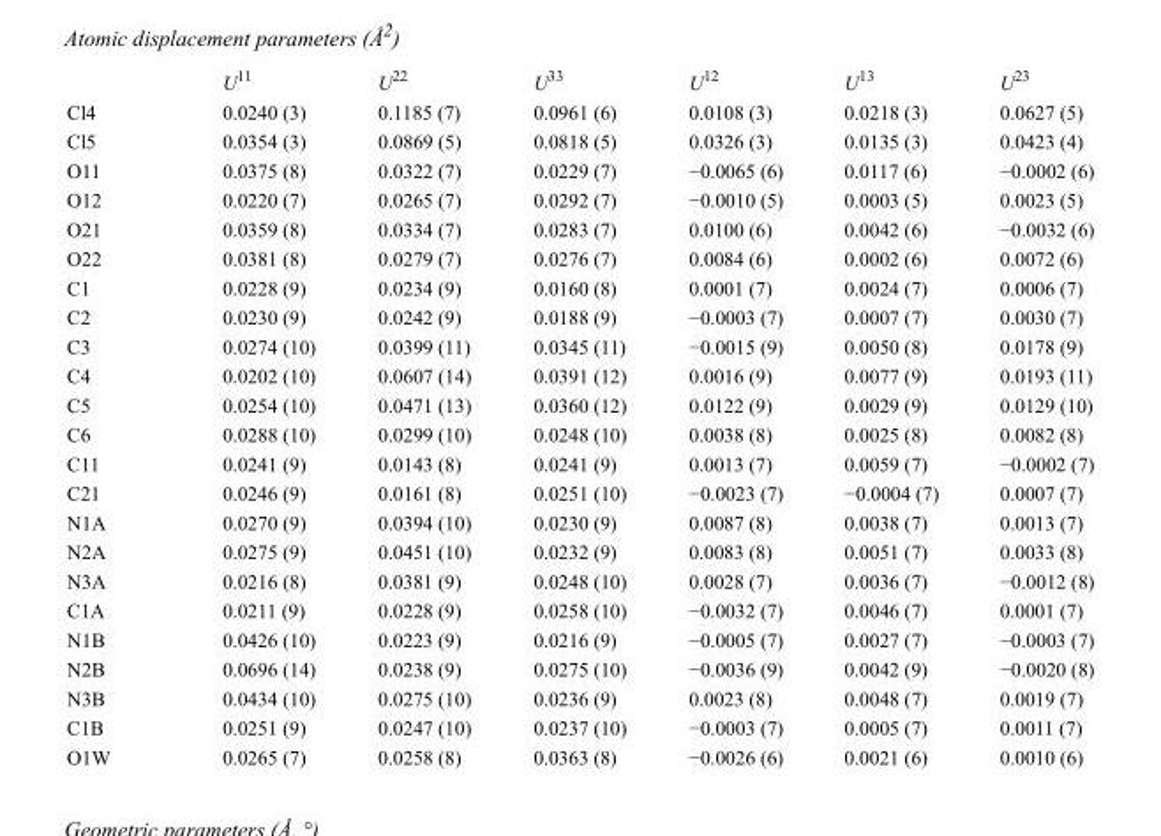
<table><thead><tr><td></td><td>U<sup>11</sup></td><td>U<sup>22</sup></td><td>U<sup>33</sup></td><td>U<sup>12</sup></td><td>U<sup>13</sup></td><td>U<sup>23</sup></td></tr></thead><tbody><tr><td>Cl4</td><td>0.0240 (3)</td><td>0.1185 (7)</td><td>0.0961 (6)</td><td>0.0108 (3)</td><td>0.0218 (3)</td><td>0.0627 (5)</td></tr><tr><td>Cl5</td><td>0.0354 (3)</td><td>0.0869 (5)</td><td>0.0818 (5)</td><td>0.0326 (3)</td><td>0.0135 (3)</td><td>0.0423 (4)</td></tr><tr><td>O11</td><td>0.0375 (8)</td><td>0.0322 (7)</td><td>0.0229 (7)</td><td>−0.0065 (6)</td><td>0.0117 (6)</td><td>−0.0002 (6)</td></tr><tr><td>O12</td><td>0.0220 (7)</td><td>0.0265 (7)</td><td>0.0292 (7)</td><td>−0.0010 (5)</td><td>0.0003 (5)</td><td>0.0023 (5)</td></tr><tr><td>O21</td><td>0.0359 (8)</td><td>0.0334 (7)</td><td>0.0283 (7)</td><td>0.0100 (6)</td><td>0.0042 (6)</td><td>−0.0032 (6)</td></tr><tr><td>O22</td><td>0.0381 (8)</td><td>0.0279 (7)</td><td>0.0276 (7)</td><td>0.0084 (6)</td><td>0.0002 (6)</td><td>0.0072 (6)</td></tr><tr><td>C1</td><td>0.0228 (9)</td><td>0.0234 (9)</td><td>0.0160 (8)</td><td>0.0001 (7)</td><td>0.0024 (7)</td><td>0.0006 (7)</td></tr><tr><td>C2</td><td>0.0230 (9)</td><td>0.0242 (9)</td><td>0.0188 (9)</td><td>−0.0003 (7)</td><td>0.0007 (7)</td><td>0.0030 (7)</td></tr><tr><td>C3</td><td>0.0274 (10)</td><td>0.0399 (11)</td><td>0.0345 (11)</td><td>−0.0015 (9)</td><td>0.0050 (8)</td><td>0.0178 (9)</td></tr><tr><td>C4</td><td>0.0202 (10)</td><td>0.0607 (14)</td><td>0.0391 (12)</td><td>0.0016 (9)</td><td>0.0077 (9)</td><td>0.0193 (11)</td></tr><tr><td>C5</td><td>0.0254 (10)</td><td>0.0471 (13)</td><td>0.0360 (12)</td><td>0.0122 (9)</td><td>0.0029 (9)</td><td>0.0129 (10)</td></tr><tr><td>C6</td><td>0.0288 (10)</td><td>0.0299 (10)</td><td>0.0248 (10)</td><td>0.0038 (8)</td><td>0.0025 (8)</td><td>0.0082 (8)</td></tr><tr><td>C11</td><td>0.0241 (9)</td><td>0.0143 (8)</td><td>0.0241 (9)</td><td>0.0013 (7)</td><td>0.0059 (7)</td><td>−0.0002 (7)</td></tr><tr><td>C21</td><td>0.0246 (9)</td><td>0.0161 (8)</td><td>0.0251 (10)</td><td>−0.0023 (7)</td><td>−0.0004 (7)</td><td>0.0007 (7)</td></tr><tr><td>N1A</td><td>0.0270 (9)</td><td>0.0394 (10)</td><td>0.0230 (9)</td><td>0.0087 (8)</td><td>0.0038 (7)</td><td>0.0013 (7)</td></tr><tr><td>N2A</td><td>0.0275 (9)</td><td>0.0451 (10)</td><td>0.0232 (9)</td><td>0.0083 (8)</td><td>0.0051 (7)</td><td>0.0033 (8)</td></tr><tr><td>N3A</td><td>0.0216 (8)</td><td>0.0381 (9)</td><td>0.0248 (10)</td><td>0.0028 (7)</td><td>0.0036 (7)</td><td>−0.0012 (8)</td></tr><tr><td>C1A</td><td>0.0211 (9)</td><td>0.0228 (9)</td><td>0.0258 (10)</td><td>−0.0032 (7)</td><td>0.0046 (7)</td><td>0.0001 (7)</td></tr><tr><td>N1B</td><td>0.0426 (10)</td><td>0.0223 (9)</td><td>0.0216 (9)</td><td>−0.0005 (7)</td><td>0.0027 (7)</td><td>−0.0003 (7)</td></tr><tr><td>N2B</td><td>0.0696 (14)</td><td>0.0238 (9)</td><td>0.0275 (10)</td><td>−0.0036 (9)</td><td>0.0042 (9)</td><td>−0.0020 (8)</td></tr><tr><td>N3B</td><td>0.0434 (10)</td><td>0.0275 (10)</td><td>0.0236 (9)</td><td>0.0023 (8)</td><td>0.0048 (7)</td><td>0.0019 (7)</td></tr><tr><td>C1B</td><td>0.0251 (9)</td><td>0.0247 (10)</td><td>0.0237 (10)</td><td>−0.0003 (7)</td><td>0.0005 (7)</td><td>0.0011 (7)</td></tr><tr><td>O1W</td><td>0.0265 (7)</td><td>0.0258 (8)</td><td>0.0363 (8)</td><td>−0.0026 (6)</td><td>0.0021 (6)</td><td>0.0010 (6)</td></tr></tbody></table>